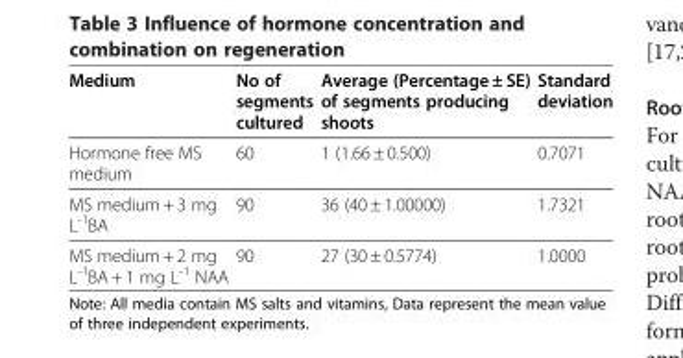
<table><thead><tr><td>Medium</td><td>No of segments cultured</td><td>Average (Percentage ± SE) of segments producing shoots</td><td>Standard deviation</td></tr></thead><tbody><tr><td>Hormone free MS medium</td><td>60</td><td>1 (1.66 ± 0.500)</td><td>0.7071</td></tr><tr><td>MS medium + 3 mg L<sup>-1</sup>BA</td><td>90</td><td>36 (40 ± 1.00000)</td><td>1.7321</td></tr><tr><td>MS medium + 2 mg L<sup>-1</sup>BA + 1 mg L<sup>-1</sup> NAA</td><td>90</td><td>27 (30 ± 0.5774)</td><td>1.0000</td></tr></tbody></table>